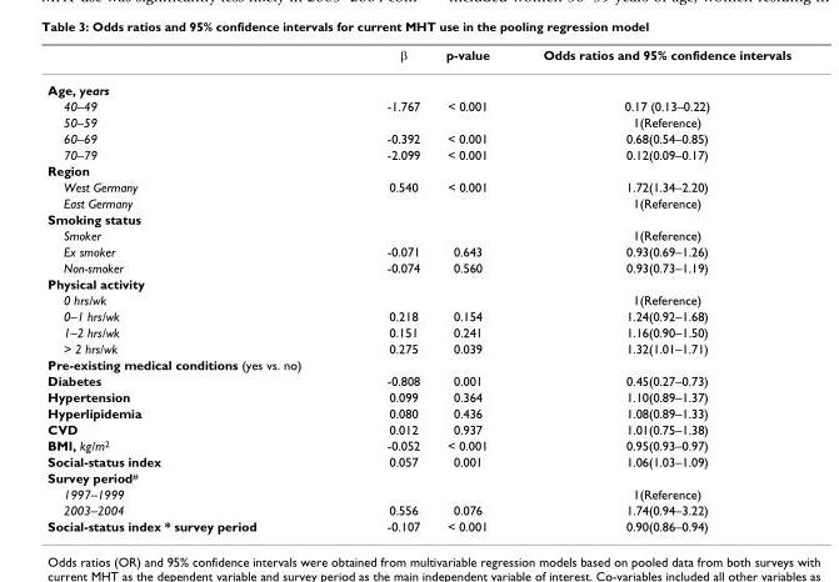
<table><thead><tr><td></td><td>β</td><td>p-value</td><td>Odds ratios and 95% confidence intervals</td></tr></thead><tbody><tr><td colspan="4">Age, years</td></tr><tr><td>40–49</td><td>-1.767</td><td>&lt; 0.001</td><td>0.17 (0.13–0.22)</td></tr><tr><td>50–59</td><td></td><td></td><td>1(Reference)</td></tr><tr><td>60–69</td><td>-0.392</td><td>&lt; 0.001</td><td>0.68(0.54–0.85)</td></tr><tr><td>70–79</td><td>-2.099</td><td>&lt; 0.001</td><td>0.12(0.09–0.17)</td></tr><tr><td colspan="4">Region</td></tr><tr><td>West Germany</td><td>0.540</td><td>&lt; 0.001</td><td>1.72(1.34–2.20)</td></tr><tr><td>East Germany</td><td></td><td></td><td>1(Reference)</td></tr><tr><td colspan="4">Smoking status</td></tr><tr><td>Smoker</td><td></td><td></td><td>1(Reference)</td></tr><tr><td>Ex smoker</td><td>-0.071</td><td>0.643</td><td>0.93(0.69–1.26)</td></tr><tr><td>Non-smoker</td><td>-0.074</td><td>0.560</td><td>0.93(0.73–1.19)</td></tr><tr><td colspan="4">Physical activity</td></tr><tr><td>0 hrs/wk</td><td></td><td></td><td>1(Reference)</td></tr><tr><td>0–1 hrs/wk</td><td>0.218</td><td>0.154</td><td>1.24(0.92–1.68)</td></tr><tr><td>1–2 hrs/wk</td><td>0.151</td><td>0.241</td><td>1.16(0.90–1.50)</td></tr><tr><td>&gt; 2 hrs/wk</td><td>0.275</td><td>0.039</td><td>1.32(1.01–1.71)</td></tr><tr><td colspan="4">Pre-existing medical conditions (yes vs. no)</td></tr><tr><td>Diabetes</td><td>-0.808</td><td>0.001</td><td>0.45(0.27–0.73)</td></tr><tr><td>Hypertension</td><td>0.099</td><td>0.364</td><td>1.10(0.89–1.37)</td></tr><tr><td>Hyperlipidemia</td><td>0.080</td><td>0.436</td><td>1.08(0.89–1.33)</td></tr><tr><td>CVD</td><td>0.012</td><td>0.937</td><td>1.01(0.75–1.38)</td></tr><tr><td>BMI, kg/m<sup>2</sup></td><td>-0.052</td><td>&lt; 0.001</td><td>0.95(0.93–0.97)</td></tr><tr><td>Social-status index</td><td>0.057</td><td>0.001</td><td>1.06(1.03–1.09)</td></tr><tr><td colspan="4">Survey period<sup>#</sup></td></tr><tr><td>1997–1999</td><td></td><td></td><td>1(Reference)</td></tr><tr><td>2003–2004</td><td>0.556</td><td>0.076</td><td>1.74(0.94–3.22)</td></tr><tr><td>Social-status index * survey period</td><td>-0.107</td><td>&lt; 0.001</td><td>0.90(0.86–0.94)</td></tr></tbody></table>